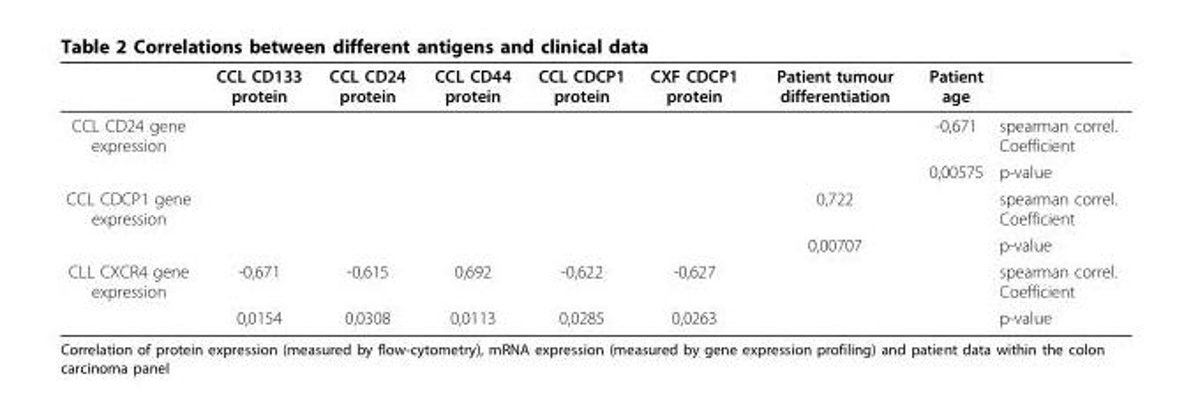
<table><thead><tr><td></td><td>CCL CD133 protein</td><td>CCL CD24 protein</td><td>CCL CD44 protein</td><td>CCL CDCP1 protein</td><td>CXF CDCP1 protein</td><td>Patient tumour differentiation</td><td>Patient age</td><td></td></tr></thead><tbody><tr><td rowspan="2">CCL CD24 gene expression</td><td></td><td></td><td></td><td></td><td></td><td></td><td>-0,671</td><td>spearman correl. Coefficient</td></tr><tr><td></td><td></td><td></td><td></td><td></td><td></td><td>0,00575</td><td>p-value</td></tr><tr><td rowspan="2">CCL CDCP1 gene expression</td><td></td><td></td><td></td><td></td><td></td><td>0,722</td><td></td><td>spearman correl. Coefficient</td></tr><tr><td></td><td></td><td></td><td></td><td></td><td>0,00707</td><td></td><td>p-value</td></tr><tr><td rowspan="2">CLL CXCR4 gene expression</td><td>-0,671</td><td>-0,615</td><td>0,692</td><td>-0,622</td><td>-0,627</td><td></td><td></td><td>spearman correl. Coefficient</td></tr><tr><td>0,0154</td><td>0,0308</td><td>0,0113</td><td>0,0285</td><td>0,0263</td><td></td><td></td><td>p-value</td></tr></tbody></table>